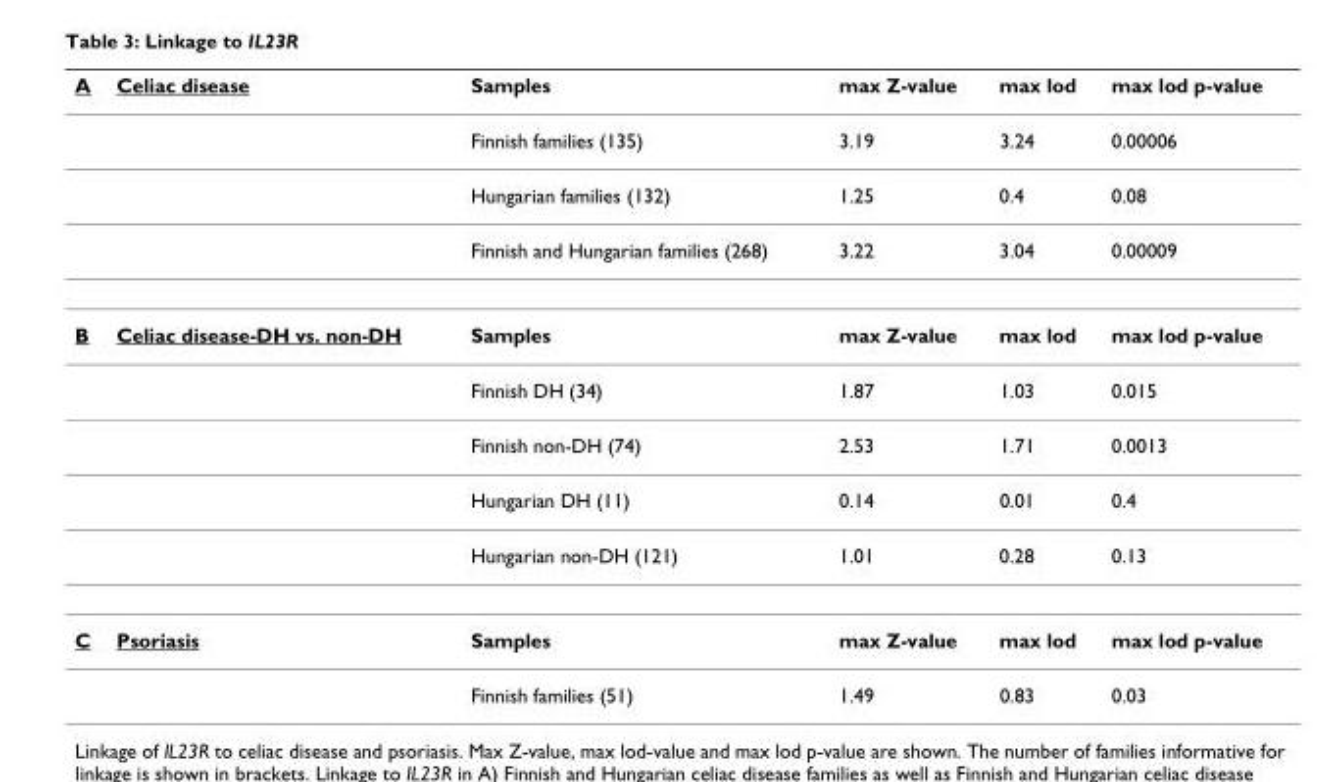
<table><thead><tr><td>A</td><td>Celiac disease</td><td>Samples</td><td>max Z-value</td><td>max lod</td><td>max lod p-value</td></tr></thead><tbody><tr><td></td><td></td><td>Finnish families (135)</td><td>3.19</td><td>3.24</td><td>0.00006</td></tr><tr><td></td><td></td><td>Hungarian families (132)</td><td>1.25</td><td>0.4</td><td>0.08</td></tr><tr><td></td><td></td><td>Finnish and Hungarian families (268)</td><td>3.22</td><td>3.04</td><td>0.00009</td></tr><tr><td rowspan="5">B</td><td>Celiac disease-DH vs. non-DH</td><td>Samples</td><td>max Z-value</td><td>max lod</td><td>max lod p-value</td></tr><tr><td></td><td>Finnish DH (34)</td><td>1.87</td><td>1.03</td><td>0.015</td></tr><tr><td></td><td>Finnish non-DH (74)</td><td>2.53</td><td>1.71</td><td>0.0013</td></tr><tr><td></td><td>Hungarian DH (11)</td><td>0.14</td><td>0.01</td><td>0.4</td></tr><tr><td></td><td>Hungarian non-DH (121)</td><td>1.01</td><td>0.28</td><td>0.13</td></tr><tr><td rowspan="2">C</td><td>Psoriasis</td><td>Samples</td><td>max Z-value</td><td>max lod</td><td>max lod p-value</td></tr><tr><td></td><td>Finnish families (51)</td><td>1.49</td><td>0.83</td><td>0.03</td></tr></tbody></table>